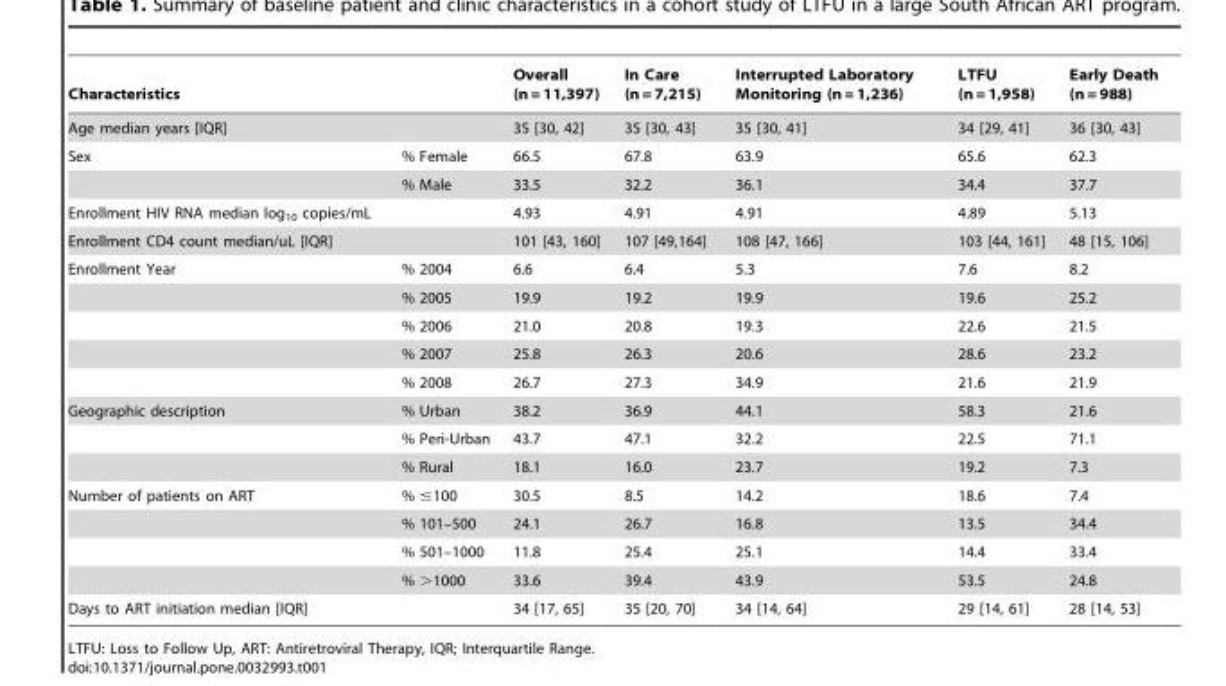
<table><thead><tr><td>Characteristics</td><td></td><td>Overall (n = 11,397)</td><td>In Care (n = 7,215)</td><td>Interrupted Laboratory Monitoring (n = 1,236)</td><td>LTFU (n = 1,958)</td><td>Early Death (n = 988)</td></tr></thead><tbody><tr><td>Age median years [IQR]</td><td></td><td>35 [30, 42]</td><td>35 [30, 43]</td><td>35 [30, 41]</td><td>34 [29, 41]</td><td>36 [30, 43]</td></tr><tr><td rowspan="2">Sex</td><td>% Female</td><td>66.5</td><td>67.8</td><td>63.9</td><td>65.6</td><td>62.3</td></tr><tr><td>% Male</td><td>33.5</td><td>32.2</td><td>36.1</td><td>34.4</td><td>37.7</td></tr><tr><td>Enrollment HIV RNA median log<sub>10</sub> copies/mL</td><td></td><td>4.93</td><td>4.91</td><td>4.91</td><td>4.89</td><td>5.13</td></tr><tr><td>Enrollment CD4 count median/uL [IQR]</td><td></td><td>101 [43, 160]</td><td>107 [49,164]</td><td>108 [47, 166]</td><td>103 [44, 161]</td><td>48 [15, 106]</td></tr><tr><td rowspan="5">Enrollment Year</td><td>% 2004</td><td>6.6</td><td>6.4</td><td>5.3</td><td>7.6</td><td>8.2</td></tr><tr><td>% 2005</td><td>19.9</td><td>19.2</td><td>19.9</td><td>19.6</td><td>25.2</td></tr><tr><td>% 2006</td><td>21.0</td><td>20.8</td><td>19.3</td><td>22.6</td><td>21.5</td></tr><tr><td>% 2007</td><td>25.8</td><td>26.3</td><td>20.6</td><td>28.6</td><td>23.2</td></tr><tr><td>% 2008</td><td>26.7</td><td>27.3</td><td>34.9</td><td>21.6</td><td>21.9</td></tr><tr><td rowspan="3">Geographic description</td><td>% Urban</td><td>38.2</td><td>36.9</td><td>44.1</td><td>58.3</td><td>21.6</td></tr><tr><td>% Peri-Urban</td><td>43.7</td><td>47.1</td><td>32.2</td><td>22.5</td><td>71.1</td></tr><tr><td>% Rural</td><td>18.1</td><td>16.0</td><td>23.7</td><td>19.2</td><td>7.3</td></tr><tr><td rowspan="4">Number of patients on ART</td><td>% ≤100</td><td>30.5</td><td>8.5</td><td>14.2</td><td>18.6</td><td>7.4</td></tr><tr><td>% 101–500</td><td>24.1</td><td>26.7</td><td>16.8</td><td>13.5</td><td>34.4</td></tr><tr><td>% 501–1000</td><td>11.8</td><td>25.4</td><td>25.1</td><td>14.4</td><td>33.4</td></tr><tr><td>% &gt;1000</td><td>33.6</td><td>39.4</td><td>43.9</td><td>53.5</td><td>24.8</td></tr><tr><td>Days to ART initiation median [IQR]</td><td></td><td>34 [17, 65]</td><td>35 [20, 70]</td><td>34 [14, 64]</td><td>29 [14, 61]</td><td>28 [14, 53]</td></tr></tbody></table>